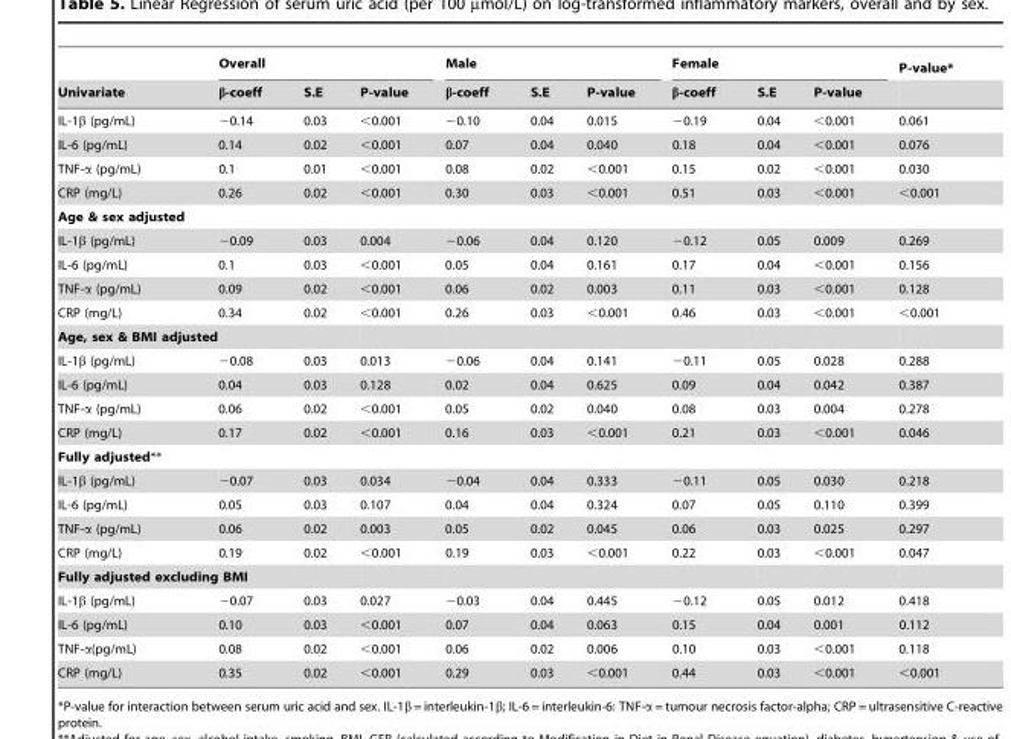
<table><thead><tr><td rowspan="2">Univariate</td><td colspan="3">Overall</td><td colspan="3">Male</td><td colspan="3">Female</td><td rowspan="2">P-value*</td></tr><tr><td>β-coeff</td><td>S.E</td><td>P-value</td><td>β-coeff</td><td>S.E</td><td>P-value</td><td>β-coeff</td><td>S.E</td><td>P-value</td></tr></thead><tbody><tr><td>IL-1β (pg/mL)</td><td>−0.14</td><td>0.03</td><td>&lt;0.001</td><td>−0.10</td><td>0.04</td><td>0.015</td><td>−0.19</td><td>0.04</td><td>&lt;0.001</td><td>0.061</td></tr><tr><td>IL-6 (pg/mL)</td><td>0.14</td><td>0.02</td><td>&lt;0.001</td><td>0.07</td><td>0.04</td><td>0.040</td><td>0.18</td><td>0.04</td><td>&lt;0.001</td><td>0.076</td></tr><tr><td>TNF-α (pg/mL)</td><td>0.1</td><td>0.01</td><td>&lt;0.001</td><td>0.08</td><td>0.02</td><td>&lt;0.001</td><td>0.15</td><td>0.02</td><td>&lt;0.001</td><td>0.030</td></tr><tr><td>CRP (mg/L)</td><td>0.26</td><td>0.02</td><td>&lt;0.001</td><td>0.30</td><td>0.03</td><td>&lt;0.001</td><td>0.51</td><td>0.03</td><td>&lt;0.001</td><td>&lt;0.001</td></tr><tr><td colspan="11">Age &amp; sex adjusted</td></tr><tr><td>IL-1β (pg/mL)</td><td>−0.09</td><td>0.03</td><td>0.004</td><td>−0.06</td><td>0.04</td><td>0.120</td><td>−0.12</td><td>0.05</td><td>0.009</td><td>0.269</td></tr><tr><td>IL-6 (pg/mL)</td><td>0.1</td><td>0.03</td><td>&lt;0.001</td><td>0.05</td><td>0.04</td><td>0.161</td><td>0.17</td><td>0.04</td><td>&lt;0.001</td><td>0.156</td></tr><tr><td>TNF-α (pg/mL)</td><td>0.09</td><td>0.02</td><td>&lt;0.001</td><td>0.06</td><td>0.02</td><td>0.003</td><td>0.11</td><td>0.03</td><td>&lt;0.001</td><td>0.128</td></tr><tr><td>CRP (mg/L)</td><td>0.34</td><td>0.02</td><td>&lt;0.001</td><td>0.26</td><td>0.03</td><td>&lt;0.001</td><td>0.46</td><td>0.03</td><td>&lt;0.001</td><td>&lt;0.001</td></tr><tr><td colspan="11">Age, sex &amp; BMI adjusted</td></tr><tr><td>IL-1β (pg/mL)</td><td>−0.08</td><td>0.03</td><td>0.013</td><td>−0.06</td><td>0.04</td><td>0.141</td><td>−0.11</td><td>0.05</td><td>0.028</td><td>0.288</td></tr><tr><td>IL-6 (pg/mL)</td><td>0.04</td><td>0.03</td><td>0.128</td><td>0.02</td><td>0.04</td><td>0.625</td><td>0.09</td><td>0.04</td><td>0.042</td><td>0.387</td></tr><tr><td>TNF-α (pg/mL)</td><td>0.06</td><td>0.02</td><td>&lt;0.001</td><td>0.05</td><td>0.02</td><td>0.040</td><td>0.08</td><td>0.03</td><td>0.004</td><td>0.278</td></tr><tr><td>CRP (mg/L)</td><td>0.17</td><td>0.02</td><td>&lt;0.001</td><td>0.16</td><td>0.03</td><td>&lt;0.001</td><td>0.21</td><td>0.03</td><td>&lt;0.001</td><td>0.046</td></tr><tr><td colspan="11">Fully adjusted**</td></tr><tr><td>IL-1β (pg/mL)</td><td>−0.07</td><td>0.03</td><td>0.034</td><td>−0.04</td><td>0.04</td><td>0.333</td><td>−0.11</td><td>0.05</td><td>0.030</td><td>0.218</td></tr><tr><td>IL-6 (pg/mL)</td><td>0.05</td><td>0.03</td><td>0.107</td><td>0.04</td><td>0.04</td><td>0.324</td><td>0.07</td><td>0.05</td><td>0.110</td><td>0.399</td></tr><tr><td>TNF-α (pg/mL)</td><td>0.06</td><td>0.02</td><td>0.003</td><td>0.05</td><td>0.02</td><td>0.045</td><td>0.06</td><td>0.03</td><td>0.025</td><td>0.297</td></tr><tr><td>CRP (mg/L)</td><td>0.19</td><td>0.02</td><td>&lt;0.001</td><td>0.19</td><td>0.03</td><td>&lt;0.001</td><td>0.22</td><td>0.03</td><td>&lt;0.001</td><td>0.047</td></tr><tr><td colspan="11">Fully adjusted excluding BMI</td></tr><tr><td>IL-1β (pg/mL)</td><td>−0.07</td><td>0.03</td><td>0.027</td><td>−0.03</td><td>0.04</td><td>0.445</td><td>−0.12</td><td>0.05</td><td>0.012</td><td>0.418</td></tr><tr><td>IL-6 (pg/mL)</td><td>0.10</td><td>0.03</td><td>&lt;0.001</td><td>0.07</td><td>0.04</td><td>0.063</td><td>0.15</td><td>0.04</td><td>0.001</td><td>0.112</td></tr><tr><td>TNF-α(pg/mL)</td><td>0.08</td><td>0.02</td><td>&lt;0.001</td><td>0.06</td><td>0.02</td><td>0.006</td><td>0.10</td><td>0.03</td><td>&lt;0.001</td><td>0.118</td></tr><tr><td>CRP (mg/L)</td><td>0.35</td><td>0.02</td><td>&lt;0.001</td><td>0.29</td><td>0.03</td><td>&lt;0.001</td><td>0.44</td><td>0.03</td><td>&lt;0.001</td><td>&lt;0.001</td></tr></tbody></table>